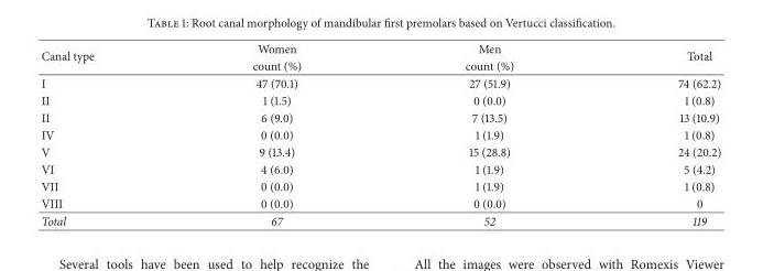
<table><thead><tr><td rowspan="2">Canal type</td><td rowspan="2">Women count (%)</td><td rowspan="2">Men count (%)</td><td rowspan="2">Total</td></tr><tr></tr></thead><tbody><tr><td>I</td><td>47 (70.1)</td><td>27 (51.9)</td><td>74 (62.2)</td></tr><tr><td>II</td><td>1 (1.5)</td><td>0 (0.0)</td><td>1 (0.8)</td></tr><tr><td>II</td><td>6 (9.0)</td><td>7 (13.5)</td><td>13 (10.9)</td></tr><tr><td>IV</td><td>0 (0.0)</td><td>1 (1.9)</td><td>1 (0.8)</td></tr><tr><td>V</td><td>9 (13.4)</td><td>15 (28.8)</td><td>24 (20.2)</td></tr><tr><td>VI</td><td>4 (6.0)</td><td>1 (1.9)</td><td>5 (4.2)</td></tr><tr><td>VII</td><td>0 (0.0)</td><td>1 (1.9)</td><td>1 (0.8)</td></tr><tr><td>VIII</td><td>0 (0.0)</td><td>0 (0.0)</td><td>0</td></tr><tr><td>Total</td><td>67</td><td>52</td><td>119</td></tr></tbody></table>